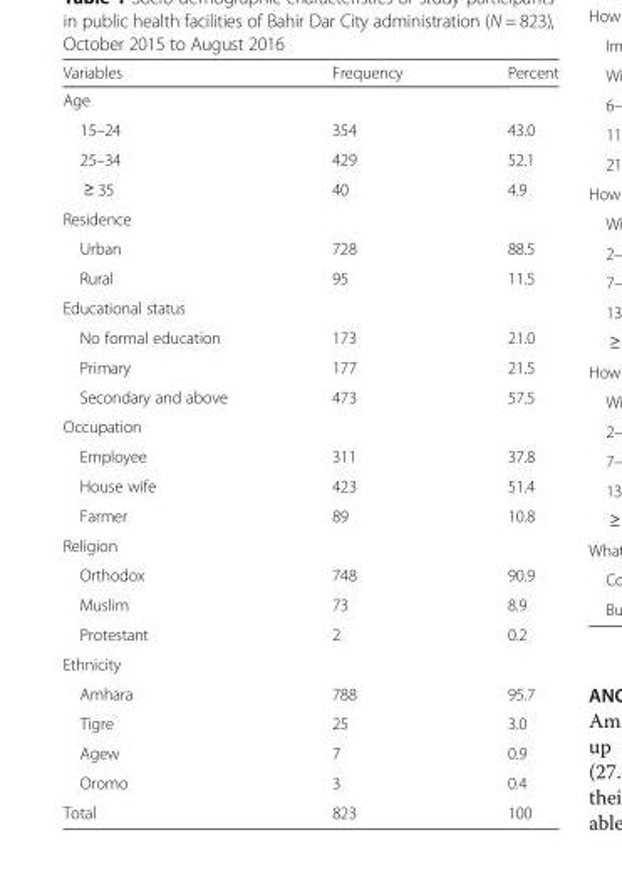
<table><thead><tr><td>Variables</td><td>Frequency</td><td>Percent</td></tr></thead><tbody><tr><td colspan="3">Age</td></tr><tr><td>15–24</td><td>354</td><td>43.0</td></tr><tr><td>25–34</td><td>429</td><td>52.1</td></tr><tr><td>≥ 35</td><td>40</td><td>4.9</td></tr><tr><td colspan="3">Residence</td></tr><tr><td>Urban</td><td>728</td><td>88.5</td></tr><tr><td>Rural</td><td>95</td><td>11.5</td></tr><tr><td colspan="3">Educational status</td></tr><tr><td>No formal education</td><td>173</td><td>21.0</td></tr><tr><td>Primary</td><td>177</td><td>21.5</td></tr><tr><td>Secondary and above</td><td>473</td><td>57.5</td></tr><tr><td colspan="3">Occupation</td></tr><tr><td>Employee</td><td>311</td><td>37.8</td></tr><tr><td>House wife</td><td>423</td><td>51.4</td></tr><tr><td>Farmer</td><td>89</td><td>10.8</td></tr><tr><td colspan="3">Religion</td></tr><tr><td>Orthodox</td><td>748</td><td>90.9</td></tr><tr><td>Muslim</td><td>73</td><td>8.9</td></tr><tr><td>Protestant</td><td>2</td><td>0.2</td></tr><tr><td colspan="3">Ethnicity</td></tr><tr><td>Amhara</td><td>788</td><td>95.7</td></tr><tr><td>Tigre</td><td>25</td><td>3.0</td></tr><tr><td>Agew</td><td>7</td><td>0.9</td></tr><tr><td>Oromo</td><td>3</td><td>0.4</td></tr><tr><td>Total</td><td>823</td><td>100</td></tr></tbody></table>